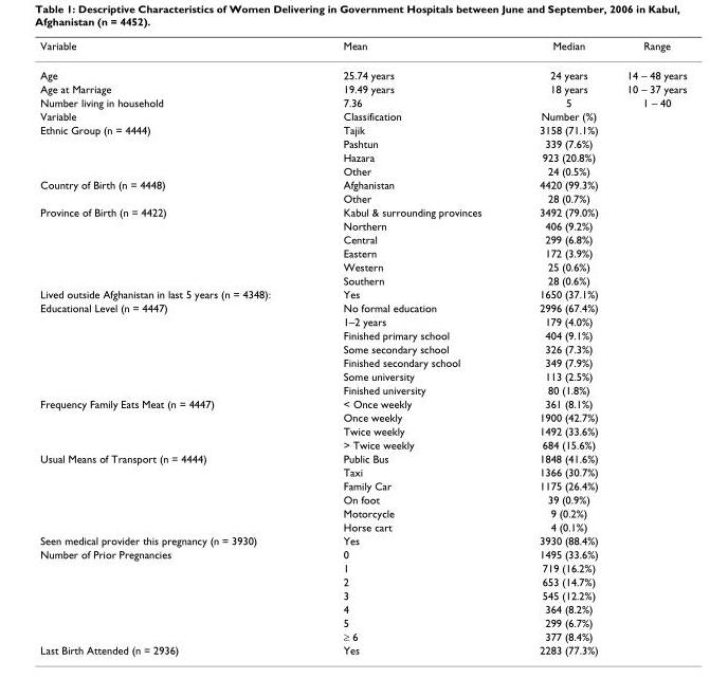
<table><thead><tr><td>Variable</td><td>Mean</td><td>Median</td><td>Range</td></tr></thead><tbody><tr><td>Age</td><td>25.74 years</td><td>24 years</td><td>14 – 48 years</td></tr><tr><td>Age at Marriage</td><td>19.49 years</td><td>18 years</td><td>10 – 37 years</td></tr><tr><td>Number living in household</td><td>7.36</td><td>5</td><td>1 – 40</td></tr><tr><td>Variable</td><td>Classification</td><td>Number (%)</td><td></td></tr><tr><td rowspan="4">Ethnic Group (n = 4444)</td><td>Tajik</td><td>3158 (71.1%)</td><td></td></tr><tr><td>Pashtun</td><td>339 (7.6%)</td><td></td></tr><tr><td>Hazara</td><td>923 (20.8%)</td><td></td></tr><tr><td>Other</td><td>24 (0.5%)</td><td></td></tr><tr><td rowspan="2">Country of Birth (n = 4448)</td><td>Afghanistan</td><td>4420 (99.3%)</td><td></td></tr><tr><td>Other</td><td>28 (0.7%)</td><td></td></tr><tr><td rowspan="6">Province of Birth (n = 4422)</td><td>Kabul &amp; surrounding provinces</td><td>3492 (79.0%)</td><td></td></tr><tr><td>Northern</td><td>406 (9.2%)</td><td></td></tr><tr><td>Central</td><td>299 (6.8%)</td><td></td></tr><tr><td>Eastern</td><td>172 (3.9%)</td><td></td></tr><tr><td>Western</td><td>25 (0.6%)</td><td></td></tr><tr><td>Southern</td><td>28 (0.6%)</td><td></td></tr><tr><td>Lived outside Afghanistan in last 5 years (n = 4348):</td><td>Yes</td><td>1650 (37.1%)</td><td></td></tr><tr><td rowspan="7">Educational Level (n = 4447)</td><td>No formal education</td><td>2996 (67.4%)</td><td></td></tr><tr><td>1–2 years</td><td>179 (4.0%)</td><td></td></tr><tr><td>Finished primary school</td><td>404 (9.1%)</td><td></td></tr><tr><td>Some secondary school</td><td>326 (7.3%)</td><td></td></tr><tr><td>Finished secondary school</td><td>349 (7.9%)</td><td></td></tr><tr><td>Some university</td><td>113 (2.5%)</td><td></td></tr><tr><td>Finished university</td><td>80 (1.8%)</td><td></td></tr><tr><td rowspan="4">Frequency Family Eats Meat (n = 4447)</td><td>&lt; Once weekly</td><td>361 (8.1%)</td><td></td></tr><tr><td>Once weekly</td><td>1900 (42.7%)</td><td></td></tr><tr><td>Twice weekly</td><td>1492 (33.6%)</td><td></td></tr><tr><td>&gt; Twice weekly</td><td>684 (15.6%)</td><td></td></tr><tr><td rowspan="6">Usual Means of Transport (n = 4444)</td><td>Public Bus</td><td>1848 (41.6%)</td><td></td></tr><tr><td>Taxi</td><td>1366 (30.7%)</td><td></td></tr><tr><td>Family Car</td><td>1175 (26.4%)</td><td></td></tr><tr><td>On foot</td><td>39 (0.9%)</td><td></td></tr><tr><td>Motorcycle</td><td>9 (0.2%)</td><td></td></tr><tr><td>Horse cart</td><td>4 (0.1%)</td><td></td></tr><tr><td>Seen medical provider this pregnancy (n = 3930)</td><td>Yes</td><td>3930 (88.4%)</td><td></td></tr><tr><td rowspan="7">Number of Prior Pregnancies</td><td>0</td><td>1495 (33.6%)</td><td></td></tr><tr><td>1</td><td>719 (16.2%)</td><td></td></tr><tr><td>2</td><td>653 (14.7%)</td><td></td></tr><tr><td>3</td><td>545 (12.2%)</td><td></td></tr><tr><td>4</td><td>364 (8.2%)</td><td></td></tr><tr><td>5</td><td>299 (6.7%)</td><td></td></tr><tr><td>≥ 6</td><td>377 (8.4%)</td><td></td></tr><tr><td>Last Birth Attended (n = 2936)</td><td>Yes</td><td>2283 (77.3%)</td><td></td></tr></tbody></table>